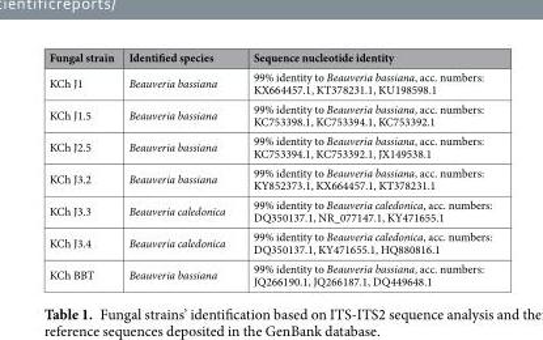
<table><thead><tr><td>Fungal strain</td><td>Identified species</td><td>Sequence nucleotide identity</td></tr></thead><tbody><tr><td>KCh J1</td><td>Beauveria bassiana</td><td>99% identity to Beauveria bassiana, acc. numbers: KX664457.1, KT378231.1, KU198598.1</td></tr><tr><td>KCh J1.5</td><td>Beauveria bassiana</td><td>99% identity to Beauveria bassiana, acc. numbers: KC753398.1, KC753394.1, KC753392.1</td></tr><tr><td>KCh J2.5</td><td>Beauveria bassiana</td><td>99% identity to Beauveria bassiana, acc. numbers: KC753394.1, KC753392.1, JX149538.1</td></tr><tr><td>KCh J3.2</td><td>Beauveria bassiana</td><td>99% identity to Beauveria bassiana, acc. numbers: KY852373.1, KX664457.1, KT378231.1</td></tr><tr><td>KCh J3.3</td><td>Beauveria caledonica</td><td>99% identity to Beauveria caledonica, acc. numbers: DQ350137.1, NR_077147.1, KY471655.1</td></tr><tr><td>KCh J3.4</td><td>Beauveria caledonica</td><td>99% identity to Beauveria caledonica, acc. numbers: DQ350137.1, KY471655.1, HQ880816.1</td></tr><tr><td>KCh BBT</td><td>Beauveria bassiana</td><td>99% identity to Beauveria bassiana, acc. numbers: JQ266190.1, JQ266187.1, DQ449648.1</td></tr></tbody></table>